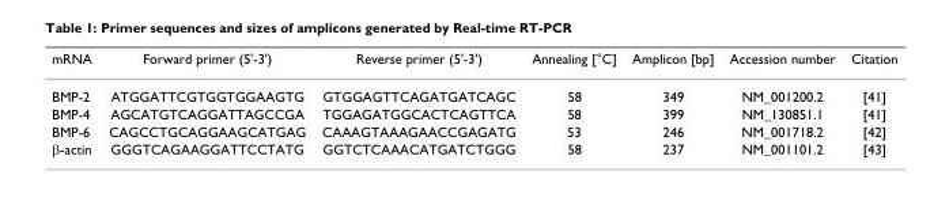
<table><thead><tr><td>mRNA</td><td>Forward primer (5&#x27;-3&#x27;)</td><td>Reverse primer (5&#x27;-3&#x27;)</td><td>Annealing [°C]</td><td>Amplicon [bp]</td><td>Accession number</td><td>Citation</td></tr></thead><tbody><tr><td>BMP-2</td><td>ATGGATTCGTGGTGGAAGTG</td><td>GTGGAGTTCAGATGATCAGC</td><td>58</td><td>349</td><td>NM_001200.2</td><td>[41]</td></tr><tr><td>BMP-4</td><td>AGCATGTCAGGATTAGCCGA</td><td>TGGAGATGGCACTCAGTTCA</td><td>58</td><td>399</td><td>NM_130851.1</td><td>[41]</td></tr><tr><td>BMP-6</td><td>CAGCCTGCAGGAAGCATGAG</td><td>CAAAGTAAAGAACCGAGATG</td><td>53</td><td>246</td><td>NM_001718.2</td><td>[42]</td></tr><tr><td>β-actin</td><td>GGGTCAGAAGGATTCCTATG</td><td>GGTCTCAAACATGATCTGGG</td><td>58</td><td>237</td><td>NM_001101.2</td><td>[43]</td></tr></tbody></table>